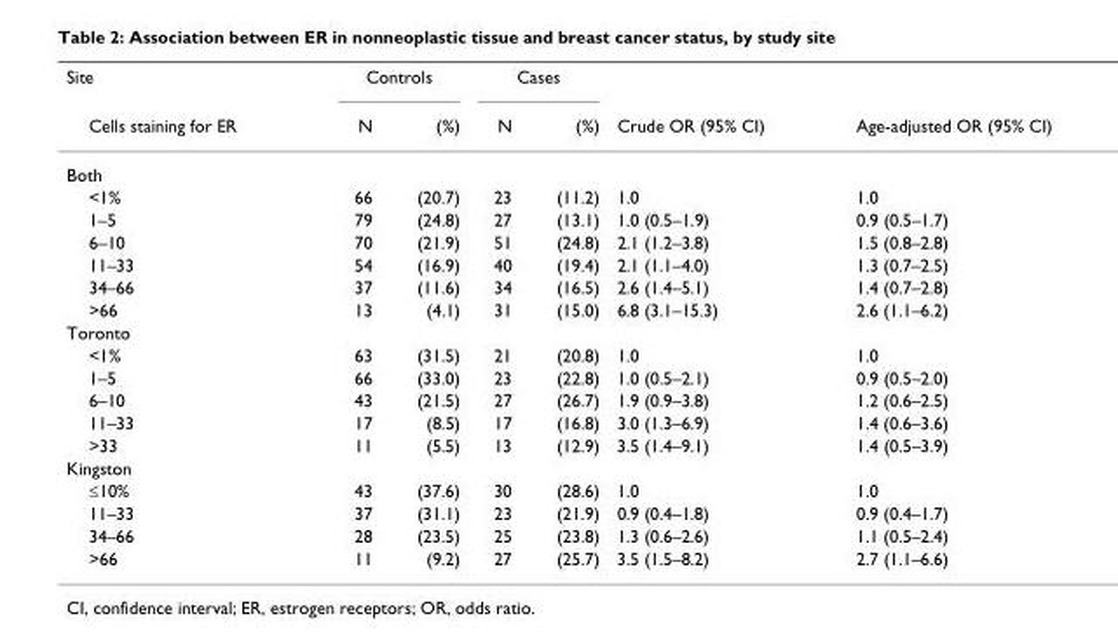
<table><thead><tr><td rowspan="2">Site Cells staining for ER</td><td colspan="2">Controls</td><td colspan="2">Cases</td><td rowspan="2">Crude OR (95% CI)</td><td rowspan="2">Age-adjusted OR (95% CI)</td></tr><tr><td>N</td><td>(%)</td><td>N</td><td>(%)</td></tr></thead><tbody><tr><td colspan="7">Both</td></tr><tr><td>&lt;1%</td><td>66</td><td>(20.7)</td><td>23</td><td>(11.2)</td><td>1.0</td><td>1.0</td></tr><tr><td>1–5</td><td>79</td><td>(24.8)</td><td>27</td><td>(13.1)</td><td>1.0 (0.5–1.9)</td><td>0.9 (0.5–1.7)</td></tr><tr><td>6–10</td><td>70</td><td>(21.9)</td><td>51</td><td>(24.8)</td><td>2.1 (1.2–3.8)</td><td>1.5 (0.8–2.8)</td></tr><tr><td>11–33</td><td>54</td><td>(16.9)</td><td>40</td><td>(19.4)</td><td>2.1 (1.1–4.0)</td><td>1.3 (0.7–2.5)</td></tr><tr><td>34–66</td><td>37</td><td>(11.6)</td><td>34</td><td>(16.5)</td><td>2.6 (1.4–5.1)</td><td>1.4 (0.7–2.8)</td></tr><tr><td>&gt;66</td><td>13</td><td>(4.1)</td><td>31</td><td>(15.0)</td><td>6.8 (3.1–15.3)</td><td>2.6 (1.1–6.2)</td></tr><tr><td colspan="7">Toronto</td></tr><tr><td>&lt;1%</td><td>63</td><td>(31.5)</td><td>21</td><td>(20.8)</td><td>1.0</td><td>1.0</td></tr><tr><td>1–5</td><td>66</td><td>(33.0)</td><td>23</td><td>(22.8)</td><td>1.0 (0.5–2.1)</td><td>0.9 (0.5–2.0)</td></tr><tr><td>6–10</td><td>43</td><td>(21.5)</td><td>27</td><td>(26.7)</td><td>1.9 (0.9–3.8)</td><td>1.2 (0.6–2.5)</td></tr><tr><td>11–33</td><td>17</td><td>(8.5)</td><td>17</td><td>(16.8)</td><td>3.0 (1.3–6.9)</td><td>1.4 (0.6–3.6)</td></tr><tr><td>&gt;33</td><td>11</td><td>(5.5)</td><td>13</td><td>(12.9)</td><td>3.5 (1.4–9.1)</td><td>1.4 (0.5–3.9)</td></tr><tr><td colspan="7">Kingston</td></tr><tr><td>≤10%</td><td>43</td><td>(37.6)</td><td>30</td><td>(28.6)</td><td>1.0</td><td>1.0</td></tr><tr><td>11–33</td><td>37</td><td>(31.1)</td><td>23</td><td>(21.9)</td><td>0.9 (0.4–1.8)</td><td>0.9 (0.4–1.7)</td></tr><tr><td>34–66</td><td>28</td><td>(23.5)</td><td>25</td><td>(23.8)</td><td>1.3 (0.6–2.6)</td><td>1.1 (0.5–2.4)</td></tr><tr><td>&gt;66</td><td>11</td><td>(9.2)</td><td>27</td><td>(25.7)</td><td>3.5 (1.5–8.2)</td><td>2.7 (1.1–6.6)</td></tr></tbody></table>